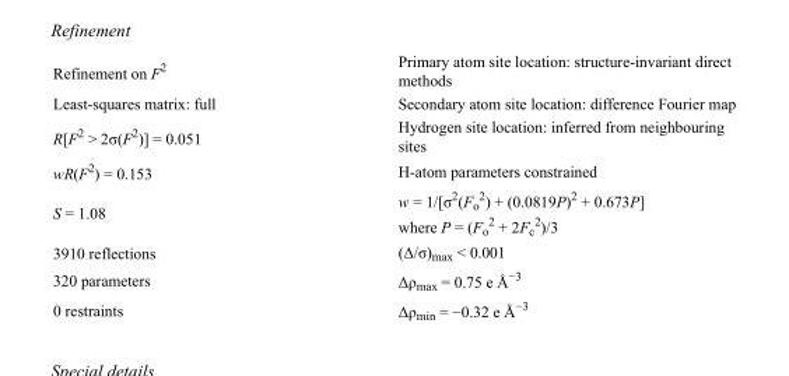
<table><tbody><tr><td>Refinement on F<sup>2</sup></td><td>Primary atom site location: structure-invariant direct methods</td></tr><tr><td>Least-squares matrix: full</td><td>Secondary atom site location: difference Fourier map</td></tr><tr><td>R[F<sup>2</sup> &gt; 2σ(F<sup>2</sup>)] = 0.051</td><td>Hydrogen site location: inferred from neighbouring sites</td></tr><tr><td>wR(F<sup>2</sup>) = 0.153</td><td>H-atom parameters constrained</td></tr><tr><td>S = 1.08</td><td>w = 1/[σ<sup>2</sup>(F<sub>o</sub> <sup>2</sup>) + (0.0819P)<sup>2</sup> + 0.673P] where P = (F<sub>o</sub> <sup>2</sup> + 2F<sub>c</sub> <sup>2</sup>)/3</td></tr><tr><td>3910 reflections</td><td>(Δ/σ)<sub>max</sub> &lt; 0.001</td></tr><tr><td>320 parameters</td><td>Δρ<sub>max</sub> = 0.75 e Å<sup>−3</sup></td></tr><tr><td>0 restraints</td><td>Δρ<sub>min</sub> = −0.32 e Å<sup>−3</sup></td></tr></tbody></table>